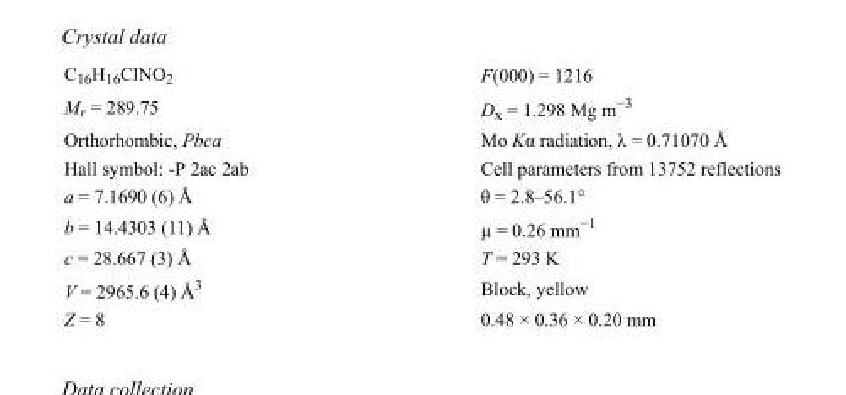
<table><tbody><tr><td>C<sub>16</sub>H<sub>16</sub>ClNO<sub>2</sub></td><td>F(000) = 1216</td></tr><tr><td>M<sub>r</sub> = 289.75</td><td>D<sub>x</sub> = 1.298 Mg m<sup>−3</sup></td></tr><tr><td>Orthorhombic, Pbca</td><td>Mo Kα radiation, λ = 0.71070 Å</td></tr><tr><td>Hall symbol: -P 2ac 2ab</td><td>Cell parameters from 13752 reflections</td></tr><tr><td>a = 7.1690 (6) Å</td><td>θ = 2.8–56.1°</td></tr><tr><td>b = 14.4303 (11) Å</td><td>µ = 0.26 mm<sup>−1</sup></td></tr><tr><td>c = 28.667 (3) Å</td><td>T = 293 K</td></tr><tr><td>V = 2965.6 (4) Å<sup>3</sup></td><td>Block, yellow</td></tr><tr><td>Z = 8</td><td>0.48 × 0.36 × 0.20 mm</td></tr></tbody></table>